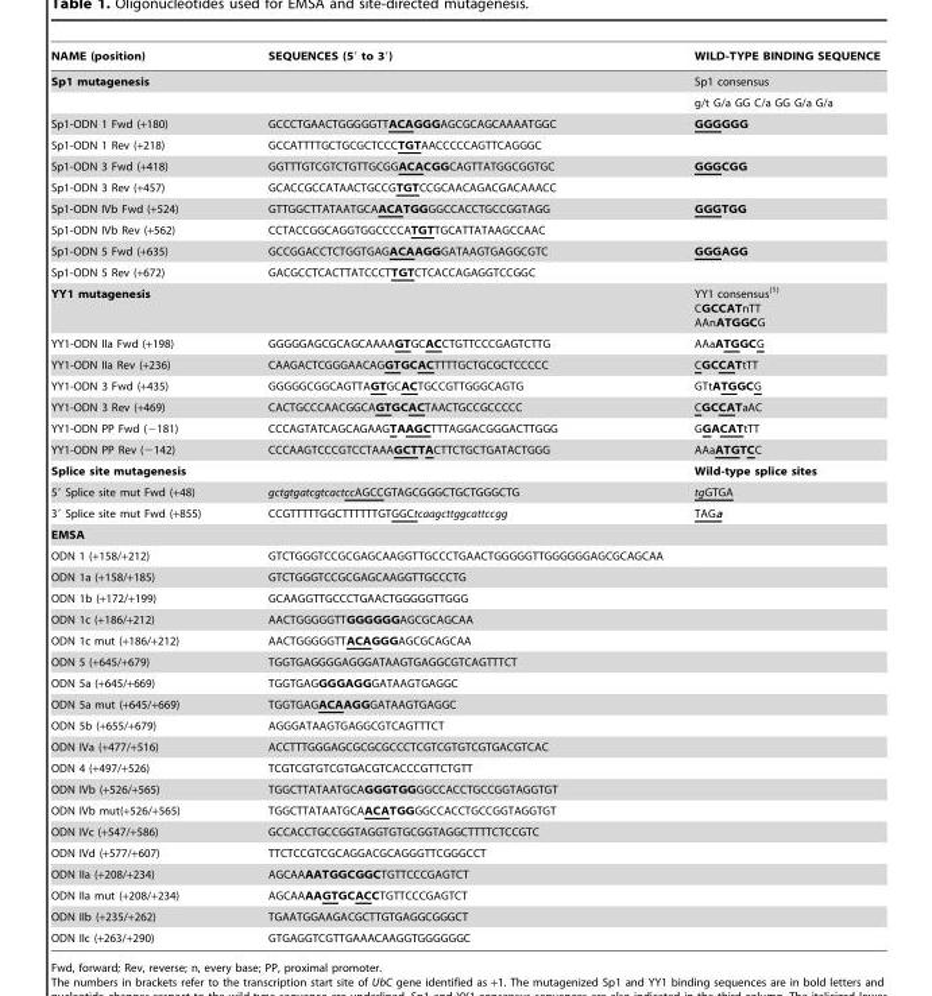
<table><thead><tr><td>NAME (position)</td><td>SEQUENCES (5′ to 3′)</td><td>WILD-TYPE BINDING SEQUENCE</td></tr></thead><tbody><tr><td rowspan="2">Sp1 mutagenesis</td><td></td><td>Sp1 consensus</td></tr><tr><td></td><td>g/t G/a GG C/a GG G/a G/a</td></tr><tr><td>Sp1-ODN 1 Fwd (+180)</td><td>GCCCTGAACTGGGGGTTACAGGGAGCGCAGCAAAATGGC</td><td>GGGGGG</td></tr><tr><td>Sp1-ODN 1 Rev (+218)</td><td>GCCATTTTGCTGCGCTCCCTGTAACCCCCAGTTCAGGGC</td><td></td></tr><tr><td>Sp1-ODN 3 Fwd (+418)</td><td>GGTTTGTCGTCTGTTGCGGACACGGCAGTTATGGCGGTGC</td><td>GGGCGG</td></tr><tr><td>Sp1-ODN 3 Rev (+457)</td><td>GCACCGCCATAACTGCCGTGTCCGCAACAGACGACAAACC</td><td></td></tr><tr><td>Sp1-ODN IVb Fwd (+524)</td><td>GTTGGCTTATAATGCAACATGGGGCCACCTGCCGGTAGG</td><td>GGGTGG</td></tr><tr><td>Sp1-ODN IVb Rev (+562)</td><td>CCTACCGGCAGGTGGCCCCATGTTGCATTATAAGCCAAC</td><td></td></tr><tr><td>Sp1-ODN 5 Fwd (+635)</td><td>GCCGGACCTCTGGTGAGACAAGGGATAAGTGAGGCGTC</td><td>GGGAGG</td></tr><tr><td>Sp1-ODN 5 Rev (+672)</td><td>GACGCCTCACTTATCCCTTGTCTCACCAGAGGTCCGGC</td><td></td></tr><tr><td>YY1 mutagenesis</td><td></td><td>YY1 consensus(1) CGCCATnTT AAnATGGCG</td></tr><tr><td>YY1-ODN IIa Fwd (+198)</td><td>GGGGGAGCGCAGCAAAAGTGCACCTGTTCCCGAGTCTTG</td><td>AAaATGGCG</td></tr><tr><td>YY1-ODN IIa Rev (+236)</td><td>CAAGACTCGGGAACAGGTGCACTTTTGCTGCGCTCCCCC</td><td>CGCCATtTT</td></tr><tr><td>YY1-ODN 3 Fwd (+435)</td><td>GGGGGCGGCAGTTAGTGCACTGCCGTTGGGCAGTG</td><td>GTtATGGCG</td></tr><tr><td>YY1-ODN 3 Rev (+469)</td><td>CACTGCCCAACGGCAGTGCACTAACTGCCGCCCCC</td><td>CGCCATaAC</td></tr><tr><td>YY1-ODN PP Fwd (−181)</td><td>CCCAGTATCAGCAGAAGTAAGCTTTAGGACGGGACTTGGG</td><td>GGACATtTT</td></tr><tr><td>YY1-ODN PP Rev (−142)</td><td>CCCAAGTCCCGTCCTAAAGCTTACTTCTGCTGATACTGGG</td><td>AAaATGTCC</td></tr><tr><td>Splice site mutagenesis</td><td></td><td>Wild-type splice sites</td></tr><tr><td>5′ Splice site mut Fwd (+48)</td><td>gctgtgatcgtcactccAGCCGTAGCGGGCTGCTGGGCTG</td><td>tgGTGA</td></tr><tr><td>3′ Splice site mut Fwd (+855)</td><td>CCGTTTTTGGCTTTTTTGTGGCtcaagcttggcattccgg</td><td>TAGa</td></tr><tr><td colspan="3">EMSA</td></tr><tr><td>ODN 1 (+158/+212)</td><td>GTCTGGGTCCGCGAGCAAGGTTGCCCTGAACTGGGGGTTGGGGGGAGCGCAGCAA</td><td></td></tr><tr><td>ODN 1a (+158/+185)</td><td>GTCTGGGTCCGCGAGCAAGGTTGCCCTG</td><td></td></tr><tr><td>ODN 1b (+172/+199)</td><td>GCAAGGTTGCCCTGAACTGGGGGTTGGG</td><td></td></tr><tr><td>ODN 1c (+186/+212)</td><td>AACTGGGGGTTGGGGGGAGCGCAGCAA</td><td></td></tr><tr><td>ODN 1c mut (+186/+212)</td><td>AACTGGGGGTTACAGGGAGCGCAGCAA</td><td></td></tr><tr><td>ODN 5 (+645/+679)</td><td>TGGTGAGGGGAGGGATAAGTGAGGCGTCAGTTTCT</td><td></td></tr><tr><td>ODN 5a (+645/+669)</td><td>TGGTGAGGGGAGGGATAAGTGAGGC</td><td></td></tr><tr><td>ODN 5a mut (+645/+669)</td><td>TGGTGAGACAAGGGATAAGTGAGGC</td><td></td></tr><tr><td>ODN 5b (+655/+679)</td><td>AGGGATAAGTGAGGCGTCAGTTTCT</td><td></td></tr><tr><td>ODN IVa (+477/+516)</td><td>ACCTTTGGGAGCGCGCGCCCTCGTCGTGTCGTGACGTCAC</td><td></td></tr><tr><td>ODN 4 (+497/+526)</td><td>TCGTCGTGTCGTGACGTCACCCGTTCTGTT</td><td></td></tr><tr><td>ODN IVb (+526/+565)</td><td>TGGCTTATAATGCAGGGTGGGGCCACCTGCCGGTAGGTGT</td><td></td></tr><tr><td>ODN IVb mut(+526/+565)</td><td>TGGCTTATAATGCAACATGGGGCCACCTGCCGGTAGGTGT</td><td></td></tr><tr><td>ODN IVc (+547/+586)</td><td>GCCACCTGCCGGTAGGTGTGCGGTAGGCTTTTCTCCGTC</td><td></td></tr><tr><td>ODN IVd (+577/+607)</td><td>TTCTCCGTCGCAGGACGCAGGGTTCGGGCCT</td><td></td></tr><tr><td>ODN IIa (+208/+234)</td><td>AGCAAAATGGCGGCTGTTCCCGAGTCT</td><td></td></tr><tr><td>ODN IIa mut (+208/+234)</td><td>AGCAAAAGTGCACCTGTTCCCGAGTCT</td><td></td></tr><tr><td>ODN IIb (+235/+262)</td><td>TGAATGGAAGACGCTTGTGAGGCGGGCT</td><td></td></tr><tr><td>ODN IIc (+263/+290)</td><td>GTGAGGTCGTTGAAACAAGGTGGGGGGC</td><td></td></tr></tbody></table>